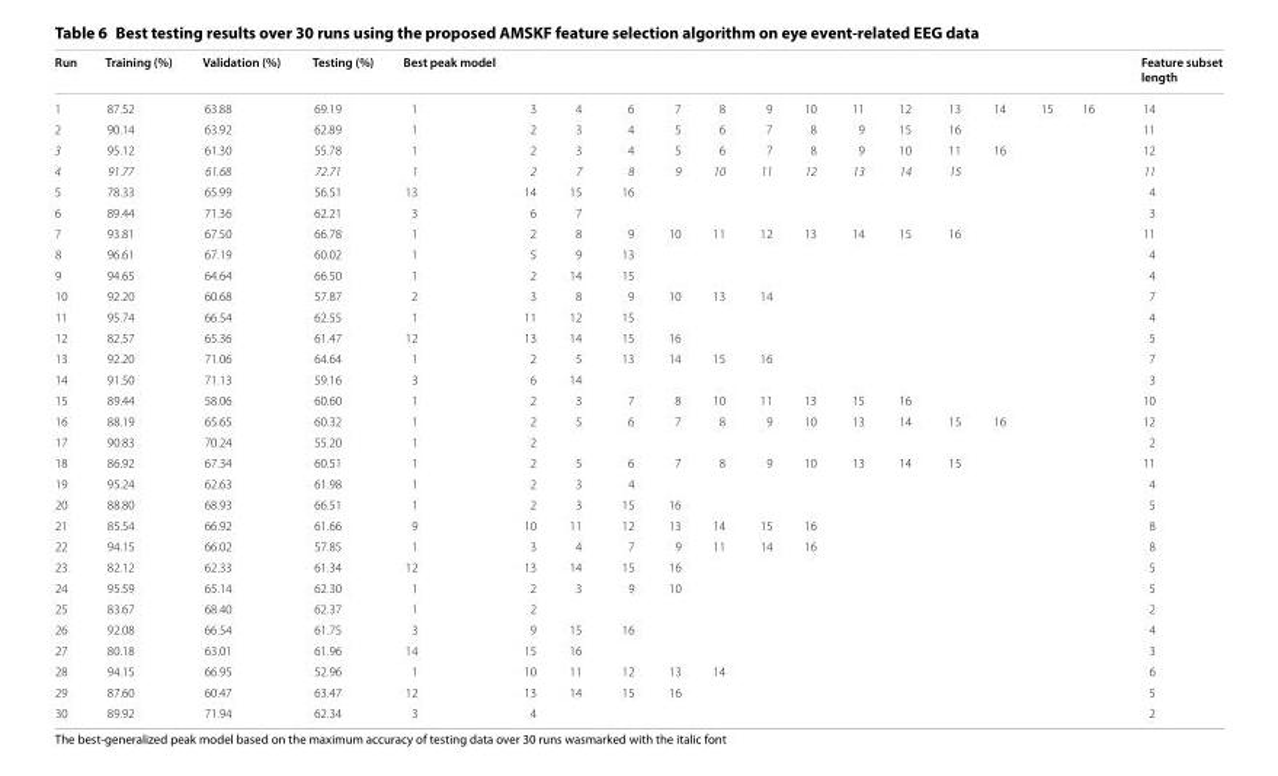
<table><thead><tr><td>Run</td><td>Training (%)</td><td>Validation (%)</td><td>Testing (%)</td><td>Best peak model</td><td></td><td></td><td></td><td></td><td></td><td></td><td></td><td></td><td></td><td></td><td></td><td></td><td></td><td>Feature subset length</td></tr></thead><tbody><tr><td>1</td><td>87.52</td><td>63.88</td><td>69.19</td><td>1</td><td>3</td><td>4</td><td>6</td><td>7</td><td>8</td><td>9</td><td>10</td><td>11</td><td>12</td><td>13</td><td>14</td><td>15</td><td>16</td><td>14</td></tr><tr><td>2</td><td>90.14</td><td>63.92</td><td>62.89</td><td>1</td><td>2</td><td>3</td><td>4</td><td>5</td><td>6</td><td>7</td><td>8</td><td>9</td><td>15</td><td>16</td><td></td><td></td><td></td><td>11</td></tr><tr><td>3</td><td>95.12</td><td>61.30</td><td>55.78</td><td>1</td><td>2</td><td>3</td><td>4</td><td>5</td><td>6</td><td>7</td><td>8</td><td>9</td><td>10</td><td>11</td><td>16</td><td></td><td></td><td>12</td></tr><tr><td>4</td><td>91.77</td><td>61.68</td><td>72.71</td><td>1</td><td>2</td><td>7</td><td>8</td><td>9</td><td>10</td><td>11</td><td>12</td><td>13</td><td>14</td><td>15</td><td></td><td></td><td></td><td>11</td></tr><tr><td>5</td><td>78.33</td><td>65.99</td><td>56.51</td><td>13</td><td>14</td><td>15</td><td>16</td><td></td><td></td><td></td><td></td><td></td><td></td><td></td><td></td><td></td><td></td><td>4</td></tr><tr><td>6</td><td>89.44</td><td>71.36</td><td>62.21</td><td>3</td><td>6</td><td>7</td><td></td><td></td><td></td><td></td><td></td><td></td><td></td><td></td><td></td><td></td><td></td><td>3</td></tr><tr><td>7</td><td>93.81</td><td>67.50</td><td>66.78</td><td>1</td><td>2</td><td>8</td><td>9</td><td>10</td><td>11</td><td>12</td><td>13</td><td>14</td><td>15</td><td>16</td><td></td><td></td><td></td><td>11</td></tr><tr><td>8</td><td>96.61</td><td>67.19</td><td>60.02</td><td>1</td><td>5</td><td>9</td><td>13</td><td></td><td></td><td></td><td></td><td></td><td></td><td></td><td></td><td></td><td></td><td>4</td></tr><tr><td>9</td><td>94.65</td><td>64.64</td><td>66.50</td><td>1</td><td>2</td><td>14</td><td>15</td><td></td><td></td><td></td><td></td><td></td><td></td><td></td><td></td><td></td><td></td><td>4</td></tr><tr><td>10</td><td>92.20</td><td>60.68</td><td>57.87</td><td>2</td><td>3</td><td>8</td><td>9</td><td>10</td><td>13</td><td>14</td><td></td><td></td><td></td><td></td><td></td><td></td><td></td><td>7</td></tr><tr><td>11</td><td>95.74</td><td>66.54</td><td>62.55</td><td>1</td><td>11</td><td>12</td><td>15</td><td></td><td></td><td></td><td></td><td></td><td></td><td></td><td></td><td></td><td></td><td>4</td></tr><tr><td>12</td><td>82.57</td><td>65.36</td><td>61.47</td><td>12</td><td>13</td><td>14</td><td>15</td><td>16</td><td></td><td></td><td></td><td></td><td></td><td></td><td></td><td></td><td></td><td>5</td></tr><tr><td>13</td><td>92.20</td><td>71.06</td><td>64.64</td><td>1</td><td>2</td><td>5</td><td>13</td><td>14</td><td>15</td><td>16</td><td></td><td></td><td></td><td></td><td></td><td></td><td></td><td>7</td></tr><tr><td>14</td><td>91.50</td><td>71.13</td><td>59.16</td><td>3</td><td>6</td><td>14</td><td></td><td></td><td></td><td></td><td></td><td></td><td></td><td></td><td></td><td></td><td></td><td>3</td></tr><tr><td>15</td><td>89.44</td><td>58.06</td><td>60.60</td><td>1</td><td>2</td><td>3</td><td>7</td><td>8</td><td>10</td><td>11</td><td>13</td><td>15</td><td>16</td><td></td><td></td><td></td><td></td><td>10</td></tr><tr><td>16</td><td>88.19</td><td>65.65</td><td>60.32</td><td>1</td><td>2</td><td>5</td><td>6</td><td>7</td><td>8</td><td>9</td><td>10</td><td>13</td><td>14</td><td>15</td><td>16</td><td></td><td></td><td>12</td></tr><tr><td>17</td><td>90.83</td><td>70.24</td><td>55.20</td><td>1</td><td>2</td><td></td><td></td><td></td><td></td><td></td><td></td><td></td><td></td><td></td><td></td><td></td><td></td><td>2</td></tr><tr><td>18</td><td>86.92</td><td>67.34</td><td>60.51</td><td>1</td><td>2</td><td>5</td><td>6</td><td>7</td><td>8</td><td>9</td><td>10</td><td>13</td><td>14</td><td>15</td><td></td><td></td><td></td><td>11</td></tr><tr><td>19</td><td>95.24</td><td>62.63</td><td>61.98</td><td>1</td><td>2</td><td>3</td><td>4</td><td></td><td></td><td></td><td></td><td></td><td></td><td></td><td></td><td></td><td></td><td>4</td></tr><tr><td>20</td><td>88.80</td><td>68.93</td><td>66.51</td><td>1</td><td>2</td><td>3</td><td>15</td><td>16</td><td></td><td></td><td></td><td></td><td></td><td></td><td></td><td></td><td></td><td>5</td></tr><tr><td>21</td><td>85.54</td><td>66.92</td><td>61.66</td><td>9</td><td>10</td><td>11</td><td>12</td><td>13</td><td>14</td><td>15</td><td>16</td><td></td><td></td><td></td><td></td><td></td><td></td><td>8</td></tr><tr><td>22</td><td>94.15</td><td>66.02</td><td>57.85</td><td>1</td><td>3</td><td>4</td><td>7</td><td>9</td><td>11</td><td>14</td><td>16</td><td></td><td></td><td></td><td></td><td></td><td></td><td>8</td></tr><tr><td>23</td><td>82.12</td><td>62.33</td><td>61.34</td><td>12</td><td>13</td><td>14</td><td>15</td><td>16</td><td></td><td></td><td></td><td></td><td></td><td></td><td></td><td></td><td></td><td>5</td></tr><tr><td>24</td><td>95.59</td><td>65.14</td><td>62.30</td><td>1</td><td>2</td><td>3</td><td>9</td><td>10</td><td></td><td></td><td></td><td></td><td></td><td></td><td></td><td></td><td></td><td>5</td></tr><tr><td>25</td><td>83.67</td><td>68.40</td><td>62.37</td><td>1</td><td>2</td><td></td><td></td><td></td><td></td><td></td><td></td><td></td><td></td><td></td><td></td><td></td><td></td><td>2</td></tr><tr><td>26</td><td>92.08</td><td>66.54</td><td>61.75</td><td>3</td><td>9</td><td>15</td><td>16</td><td></td><td></td><td></td><td></td><td></td><td></td><td></td><td></td><td></td><td></td><td>4</td></tr><tr><td>27</td><td>80.18</td><td>63.01</td><td>61.96</td><td>14</td><td>15</td><td>16</td><td></td><td></td><td></td><td></td><td></td><td></td><td></td><td></td><td></td><td></td><td></td><td>3</td></tr><tr><td>28</td><td>94.15</td><td>66.95</td><td>52.96</td><td>1</td><td>10</td><td>11</td><td>12</td><td>13</td><td>14</td><td></td><td></td><td></td><td></td><td></td><td></td><td></td><td></td><td>6</td></tr><tr><td>29</td><td>87.60</td><td>60.47</td><td>63.47</td><td>12</td><td>13</td><td>14</td><td>15</td><td>16</td><td></td><td></td><td></td><td></td><td></td><td></td><td></td><td></td><td></td><td>5</td></tr><tr><td>30</td><td>89.92</td><td>71.94</td><td>62.34</td><td>3</td><td>4</td><td></td><td></td><td></td><td></td><td></td><td></td><td></td><td></td><td></td><td></td><td></td><td></td><td>2</td></tr></tbody></table>